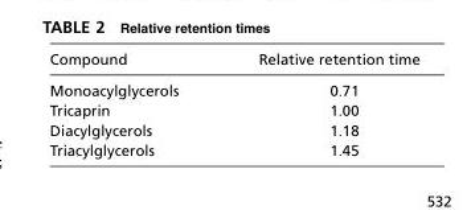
<table><thead><tr><td>Compound</td><td>Relative retention time</td></tr></thead><tbody><tr><td>Monoacylglycerols</td><td>0.71</td></tr><tr><td>Tricaprin</td><td>1.00</td></tr><tr><td>Diacylglycerols</td><td>1.18</td></tr><tr><td>Triacylglycerols</td><td>1.45</td></tr></tbody></table>